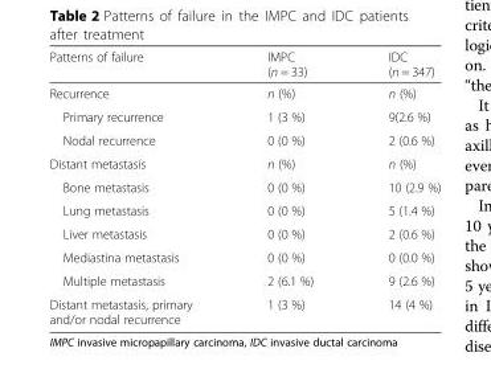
<table><thead><tr><td>Patterns of failure</td><td>IMPC (n = 33)</td><td>IDC (n = 347)</td></tr></thead><tbody><tr><td>Recurrence</td><td>n (%)</td><td>n (%)</td></tr><tr><td>Primary recurrence</td><td>1 (3 %)</td><td>9(2.6 %)</td></tr><tr><td>Nodal recurrence</td><td>0 (0 %)</td><td>2 (0.6 %)</td></tr><tr><td>Distant metastasis</td><td>n (%)</td><td>n (%)</td></tr><tr><td>Bone metastasis</td><td>0 (0 %)</td><td>10 (2.9 %)</td></tr><tr><td>Lung metastasis</td><td>0 (0 %)</td><td>5 (1.4 %)</td></tr><tr><td>Liver metastasis</td><td>0 (0 %)</td><td>2 (0.6 %)</td></tr><tr><td>Mediastina metastasis</td><td>0 (0 %)</td><td>0 (0.0 %)</td></tr><tr><td>Multiple metastasis</td><td>2 (6.1 %)</td><td>9 (2.6 %)</td></tr><tr><td>Distant metastasis, primary and/or nodal recurrence</td><td>1 (3 %)</td><td>14 (4 %)</td></tr></tbody></table>